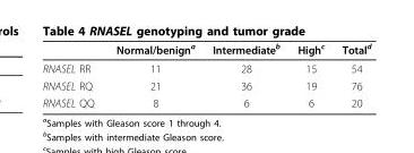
<table><thead><tr><td></td><td>Normal/benign<sup>a</sup></td><td>Intermediate<sup>b</sup></td><td>High<sup>c</sup></td><td>Total<sup>d</sup></td></tr></thead><tbody><tr><td>RNASEL RR</td><td>11</td><td>28</td><td>15</td><td>54</td></tr><tr><td>RNASEL RQ</td><td>21</td><td>36</td><td>19</td><td>76</td></tr><tr><td>RNASEL QQ</td><td>8</td><td>6</td><td>6</td><td>20</td></tr></tbody></table>